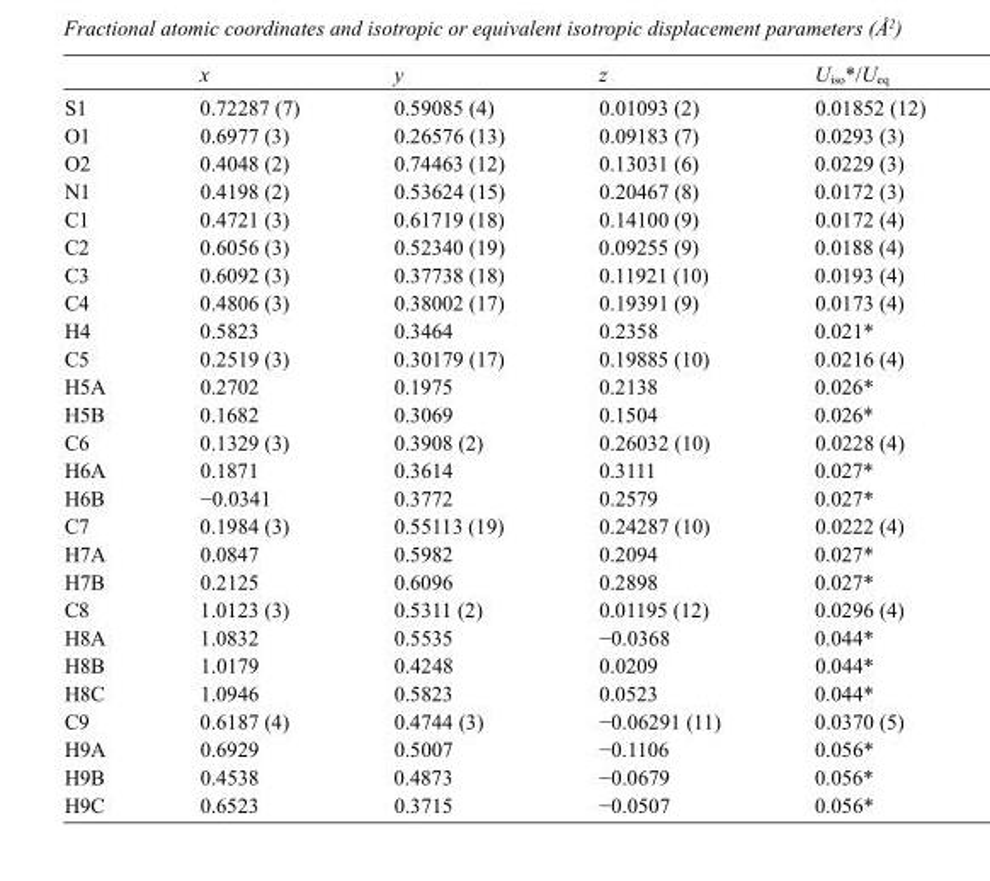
<table><thead><tr><td></td><td>x</td><td>y</td><td>z</td><td>U<sub>iso</sub>*/U<sub>eq</sub></td></tr></thead><tbody><tr><td>S1</td><td>0.72287 (7)</td><td>0.59085 (4)</td><td>0.01093 (2)</td><td>0.01852 (12)</td></tr><tr><td>O1</td><td>0.6977 (3)</td><td>0.26576 (13)</td><td>0.09183 (7)</td><td>0.0293 (3)</td></tr><tr><td>O2</td><td>0.4048 (2)</td><td>0.74463 (12)</td><td>0.13031 (6)</td><td>0.0229 (3)</td></tr><tr><td>N1</td><td>0.4198 (2)</td><td>0.53624 (15)</td><td>0.20467 (8)</td><td>0.0172 (3)</td></tr><tr><td>C1</td><td>0.4721 (3)</td><td>0.61719 (18)</td><td>0.14100 (9)</td><td>0.0172 (4)</td></tr><tr><td>C2</td><td>0.6056 (3)</td><td>0.52340 (19)</td><td>0.09255 (9)</td><td>0.0188 (4)</td></tr><tr><td>C3</td><td>0.6092 (3)</td><td>0.37738 (18)</td><td>0.11921 (10)</td><td>0.0193 (4)</td></tr><tr><td>C4</td><td>0.4806 (3)</td><td>0.38002 (17)</td><td>0.19391 (9)</td><td>0.0173 (4)</td></tr><tr><td>H4</td><td>0.5823</td><td>0.3464</td><td>0.2358</td><td>0.021*</td></tr><tr><td>C5</td><td>0.2519 (3)</td><td>0.30179 (17)</td><td>0.19885 (10)</td><td>0.0216 (4)</td></tr><tr><td>H5A</td><td>0.2702</td><td>0.1975</td><td>0.2138</td><td>0.026*</td></tr><tr><td>H5B</td><td>0.1682</td><td>0.3069</td><td>0.1504</td><td>0.026*</td></tr><tr><td>C6</td><td>0.1329 (3)</td><td>0.3908 (2)</td><td>0.26032 (10)</td><td>0.0228 (4)</td></tr><tr><td>H6A</td><td>0.1871</td><td>0.3614</td><td>0.3111</td><td>0.027*</td></tr><tr><td>H6B</td><td>−0.0341</td><td>0.3772</td><td>0.2579</td><td>0.027*</td></tr><tr><td>C7</td><td>0.1984 (3)</td><td>0.55113 (19)</td><td>0.24287 (10)</td><td>0.0222 (4)</td></tr><tr><td>H7A</td><td>0.0847</td><td>0.5982</td><td>0.2094</td><td>0.027*</td></tr><tr><td>H7B</td><td>0.2125</td><td>0.6096</td><td>0.2898</td><td>0.027*</td></tr><tr><td>C8</td><td>1.0123 (3)</td><td>0.5311 (2)</td><td>0.01195 (12)</td><td>0.0296 (4)</td></tr><tr><td>H8A</td><td>1.0832</td><td>0.5535</td><td>−0.0368</td><td>0.044*</td></tr><tr><td>H8B</td><td>1.0179</td><td>0.4248</td><td>0.0209</td><td>0.044*</td></tr><tr><td>H8C</td><td>1.0946</td><td>0.5823</td><td>0.0523</td><td>0.044*</td></tr><tr><td>C9</td><td>0.6187 (4)</td><td>0.4744 (3)</td><td>−0.06291 (11)</td><td>0.0370 (5)</td></tr><tr><td>H9A</td><td>0.6929</td><td>0.5007</td><td>−0.1106</td><td>0.056*</td></tr><tr><td>H9B</td><td>0.4538</td><td>0.4873</td><td>−0.0679</td><td>0.056*</td></tr><tr><td>H9C</td><td>0.6523</td><td>0.3715</td><td>−0.0507</td><td>0.056*</td></tr></tbody></table>